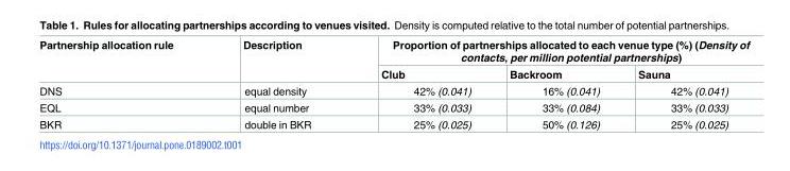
<table><thead><tr><td rowspan="2">Partnership allocation rule</td><td rowspan="2">Description</td><td colspan="3">Proportion of partnerships allocated to each venue type (%) (Density of contacts, per million potential partnerships)</td></tr><tr><td>Club</td><td>Backroom</td><td>Sauna</td></tr></thead><tbody><tr><td>DNS</td><td>equal density</td><td>42% (0.041)</td><td>16% (0.041)</td><td>42% (0.041)</td></tr><tr><td>EQL</td><td>equal number</td><td>33% (0.033)</td><td>33% (0.084)</td><td>33% (0.033)</td></tr><tr><td>BKR</td><td>double in BKR</td><td>25% (0.025)</td><td>50% (0.126)</td><td>25% (0.025)</td></tr></tbody></table>